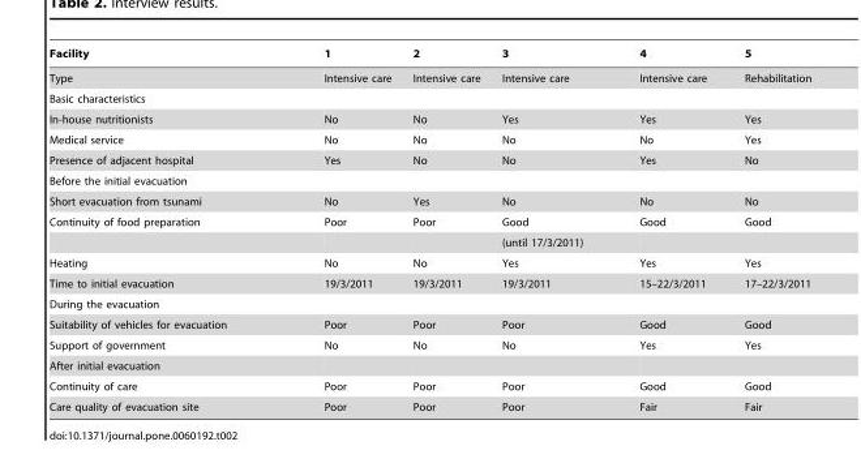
<table><thead><tr><td>Facility</td><td>1</td><td>2</td><td>3</td><td>4</td><td>5</td></tr></thead><tbody><tr><td>Type</td><td>Intensive care</td><td>Intensive care</td><td>Intensive care</td><td>Intensive care</td><td>Rehabilitation</td></tr><tr><td colspan="6">Basic characteristics</td></tr><tr><td>In-house nutritionists</td><td>No</td><td>No</td><td>Yes</td><td>Yes</td><td>Yes</td></tr><tr><td>Medical service</td><td>No</td><td>No</td><td>No</td><td>No</td><td>Yes</td></tr><tr><td>Presence of adjacent hospital</td><td>Yes</td><td>No</td><td>No</td><td>Yes</td><td>No</td></tr><tr><td colspan="6">Before the initial evacuation</td></tr><tr><td>Short evacuation from tsunami</td><td>No</td><td>Yes</td><td>No</td><td>No</td><td>No</td></tr><tr><td rowspan="2">Continuity of food preparation</td><td>Poor</td><td>Poor</td><td>Good</td><td>Good</td><td>Good</td></tr><tr><td></td><td></td><td>(until 17/3/2011)</td><td></td><td></td></tr><tr><td>Heating</td><td>No</td><td>No</td><td>Yes</td><td>Yes</td><td>Yes</td></tr><tr><td>Time to initial evacuation</td><td>19/3/2011</td><td>19/3/2011</td><td>19/3/2011</td><td>15–22/3/2011</td><td>17–22/3/2011</td></tr><tr><td colspan="6">During the evacuation</td></tr><tr><td>Suitability of vehicles for evacuation</td><td>Poor</td><td>Poor</td><td>Poor</td><td>Good</td><td>Good</td></tr><tr><td>Support of government</td><td>No</td><td>No</td><td>No</td><td>Yes</td><td>Yes</td></tr><tr><td colspan="6">After initial evacuation</td></tr><tr><td>Continuity of care</td><td>Poor</td><td>Poor</td><td>Poor</td><td>Good</td><td>Good</td></tr><tr><td>Care quality of evacuation site</td><td>Poor</td><td>Poor</td><td>Poor</td><td>Fair</td><td>Fair</td></tr></tbody></table>